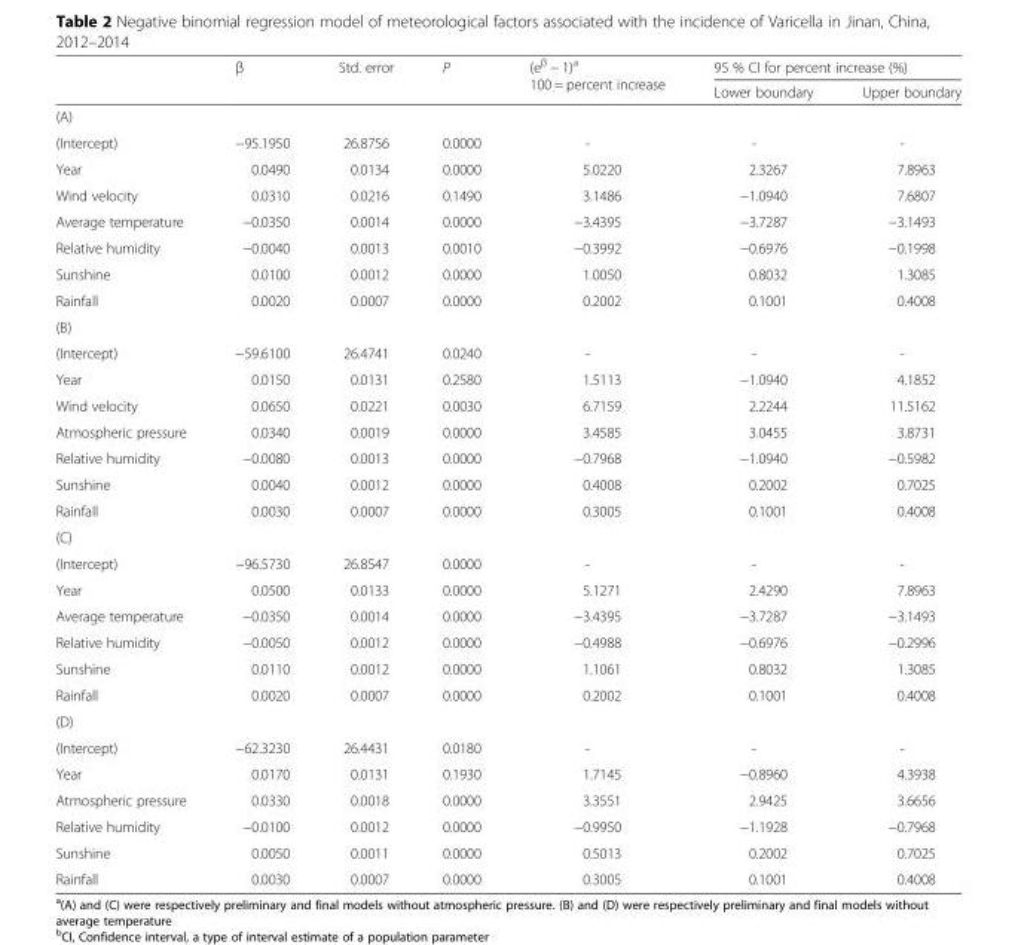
<table><thead><tr><td rowspan="2"></td><td rowspan="2">β</td><td rowspan="2">Std. error</td><td rowspan="2">P</td><td rowspan="2">(e<sup>β</sup> − 1)<sup>a</sup> 100 = percent increase</td><td colspan="2">95 % CI for percent increase (%)</td></tr><tr><td>Lower boundary</td><td>Upper boundary</td></tr></thead><tbody><tr><td colspan="7">(A)</td></tr><tr><td>(Intercept)</td><td>−95.1950</td><td>26.8756</td><td>0.0000</td><td>-</td><td>-</td><td>-</td></tr><tr><td>Year</td><td>0.0490</td><td>0.0134</td><td>0.0000</td><td>5.0220</td><td>2.3267</td><td>7.8963</td></tr><tr><td>Wind velocity</td><td>0.0310</td><td>0.0216</td><td>0.1490</td><td>3.1486</td><td>−1.0940</td><td>7.6807</td></tr><tr><td>Average temperature</td><td>−0.0350</td><td>0.0014</td><td>0.0000</td><td>−3.4395</td><td>−3.7287</td><td>−3.1493</td></tr><tr><td>Relative humidity</td><td>−0.0040</td><td>0.0013</td><td>0.0010</td><td>−0.3992</td><td>−0.6976</td><td>−0.1998</td></tr><tr><td>Sunshine</td><td>0.0100</td><td>0.0012</td><td>0.0000</td><td>1.0050</td><td>0.8032</td><td>1.3085</td></tr><tr><td>Rainfall</td><td>0.0020</td><td>0.0007</td><td>0.0000</td><td>0.2002</td><td>0.1001</td><td>0.4008</td></tr><tr><td colspan="7">(B)</td></tr><tr><td>(Intercept)</td><td>−59.6100</td><td>26.4741</td><td>0.0240</td><td>-</td><td>-</td><td>-</td></tr><tr><td>Year</td><td>0.0150</td><td>0.0131</td><td>0.2580</td><td>1.5113</td><td>−1.0940</td><td>4.1852</td></tr><tr><td>Wind velocity</td><td>0.0650</td><td>0.0221</td><td>0.0030</td><td>6.7159</td><td>2.2244</td><td>11.5162</td></tr><tr><td>Atmospheric pressure</td><td>0.0340</td><td>0.0019</td><td>0.0000</td><td>3.4585</td><td>3.0455</td><td>3.8731</td></tr><tr><td>Relative humidity</td><td>−0.0080</td><td>0.0013</td><td>0.0000</td><td>−0.7968</td><td>−1.0940</td><td>−0.5982</td></tr><tr><td>Sunshine</td><td>0.0040</td><td>0.0012</td><td>0.0000</td><td>0.4008</td><td>0.2002</td><td>0.7025</td></tr><tr><td>Rainfall</td><td>0.0030</td><td>0.0007</td><td>0.0000</td><td>0.3005</td><td>0.1001</td><td>0.4008</td></tr><tr><td colspan="7">(C)</td></tr><tr><td>(Intercept)</td><td>−96.5730</td><td>26.8547</td><td>0.0000</td><td>-</td><td>-</td><td>-</td></tr><tr><td>Year</td><td>0.0500</td><td>0.0133</td><td>0.0000</td><td>5.1271</td><td>2.4290</td><td>7.8963</td></tr><tr><td>Average temperature</td><td>−0.0350</td><td>0.0014</td><td>0.0000</td><td>−3.4395</td><td>−3.7287</td><td>−3.1493</td></tr><tr><td>Relative humidity</td><td>−0.0050</td><td>0.0012</td><td>0.0000</td><td>−0.4988</td><td>−0.6976</td><td>−0.2996</td></tr><tr><td>Sunshine</td><td>0.0110</td><td>0.0012</td><td>0.0000</td><td>1.1061</td><td>0.8032</td><td>1.3085</td></tr><tr><td>Rainfall</td><td>0.0020</td><td>0.0007</td><td>0.0000</td><td>0.2002</td><td>0.1001</td><td>0.4008</td></tr><tr><td colspan="7">(D)</td></tr><tr><td>(Intercept)</td><td>−62.3230</td><td>26.4431</td><td>0.0180</td><td>-</td><td>-</td><td>-</td></tr><tr><td>Year</td><td>0.0170</td><td>0.0131</td><td>0.1930</td><td>1.7145</td><td>−0.8960</td><td>4.3938</td></tr><tr><td>Atmospheric pressure</td><td>0.0330</td><td>0.0018</td><td>0.0000</td><td>3.3551</td><td>2.9425</td><td>3.6656</td></tr><tr><td>Relative humidity</td><td>−0.0100</td><td>0.0012</td><td>0.0000</td><td>−0.9950</td><td>−1.1928</td><td>−0.7968</td></tr><tr><td>Sunshine</td><td>0.0050</td><td>0.0011</td><td>0.0000</td><td>0.5013</td><td>0.2002</td><td>0.7025</td></tr><tr><td>Rainfall</td><td>0.0030</td><td>0.0007</td><td>0.0000</td><td>0.3005</td><td>0.1001</td><td>0.4008</td></tr></tbody></table>